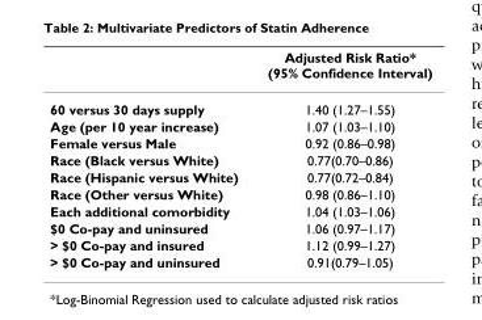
<table><thead><tr><td></td><td>Adjusted Risk Ratio* (95% Confidence Interval)</td></tr></thead><tbody><tr><td>60 versus 30 days supply</td><td>1.40 (1.27–1.55)</td></tr><tr><td>Age (per 10 year increase)</td><td>1.07 (1.03–1.10)</td></tr><tr><td>Female versus Male</td><td>0.92 (0.86–0.98)</td></tr><tr><td>Race (Black versus White)</td><td>0.77(0.70–0.86)</td></tr><tr><td>Race (Hispanic versus White)</td><td>0.77(0.72–0.84)</td></tr><tr><td>Race (Other versus White)</td><td>0.98 (0.86–1.10)</td></tr><tr><td>Each additional comorbidity</td><td>1.04 (1.03–1.06)</td></tr><tr><td>$0 Co-pay and uninsured</td><td>1.06 (0.97–1.17)</td></tr><tr><td>&gt; $0 Co-pay and insured</td><td>1.12 (0.99–1.27)</td></tr><tr><td>&gt; $0 Co-pay and uninsured</td><td>0.91(0.79–1.05)</td></tr></tbody></table>